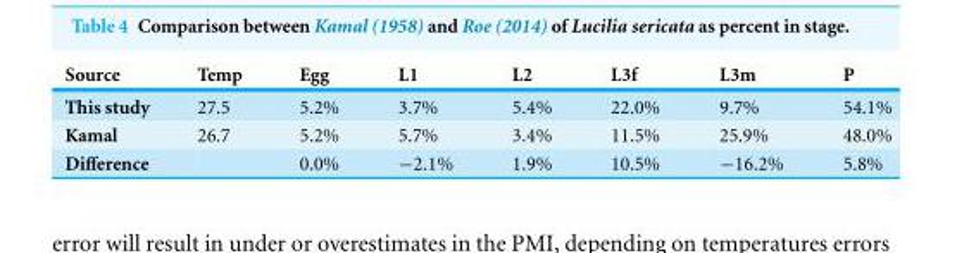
<table><thead><tr><td>Source</td><td>Temp</td><td>Egg</td><td>L1</td><td>L2</td><td>L3f</td><td>L3m</td><td>P</td></tr></thead><tbody><tr><td>This study</td><td>27.5</td><td>5.2%</td><td>3.7%</td><td>5.4%</td><td>22.0%</td><td>9.7%</td><td>54.1%</td></tr><tr><td>Kamal</td><td>26.7</td><td>5.2%</td><td>5.7%</td><td>3.4%</td><td>11.5%</td><td>25.9%</td><td>48.0%</td></tr><tr><td>Difference</td><td></td><td>0.0%</td><td>−2.1%</td><td>1.9%</td><td>10.5%</td><td>−16.2%</td><td>5.8%</td></tr></tbody></table>